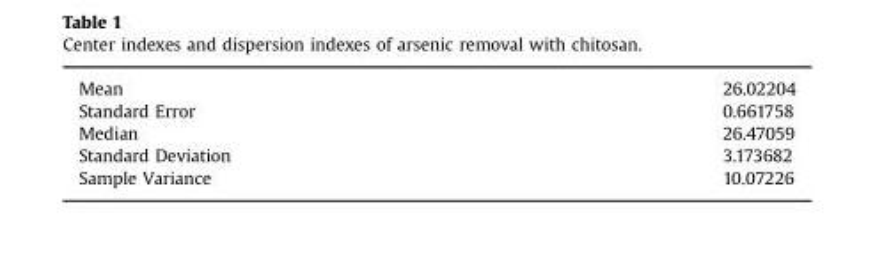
<table><tbody><tr><td>Mean</td><td>26.02204</td></tr><tr><td>Standard Error</td><td>0.661758</td></tr><tr><td>Median</td><td>26.47059</td></tr><tr><td>Standard Deviation</td><td>3.173682</td></tr><tr><td>Sample Variance</td><td>10.07226</td></tr></tbody></table>